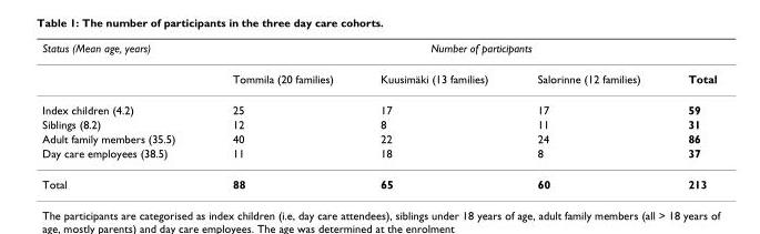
<table><thead><tr><td rowspan="2">Status (Mean age, years)</td><td colspan="4">Number of participants</td></tr><tr><td>Tommila (20 families)</td><td>Kuusimäki (13 families)</td><td>Salorinne (12 families)</td><td>Total</td></tr></thead><tbody><tr><td>Index children (4.2)</td><td>25</td><td>17</td><td>17</td><td>59</td></tr><tr><td>Siblings (8.2)</td><td>12</td><td>8</td><td>11</td><td>31</td></tr><tr><td>Adult family members (35.5)</td><td>40</td><td>22</td><td>24</td><td>86</td></tr><tr><td>Day care employees (38.5)</td><td>11</td><td>18</td><td>8</td><td>37</td></tr><tr><td>Total</td><td>88</td><td>65</td><td>60</td><td>213</td></tr></tbody></table>